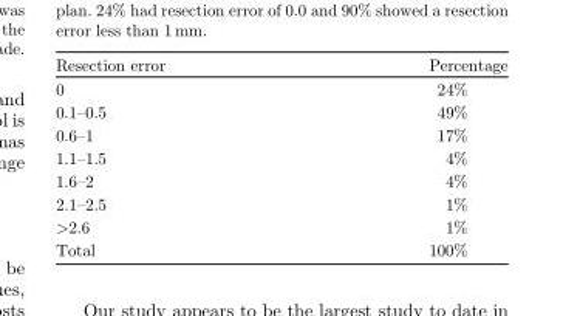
<table><thead><tr><td>Resection error</td><td>Percentage</td></tr></thead><tbody><tr><td>0</td><td>24%</td></tr><tr><td>0.1–0.5</td><td>49%</td></tr><tr><td>0.6–1</td><td>17%</td></tr><tr><td>1.1–1.5</td><td>4%</td></tr><tr><td>1.6–2</td><td>4%</td></tr><tr><td>2.1–2.5</td><td>1%</td></tr><tr><td>&gt;2.6</td><td>1%</td></tr><tr><td>Total</td><td>100%</td></tr></tbody></table>